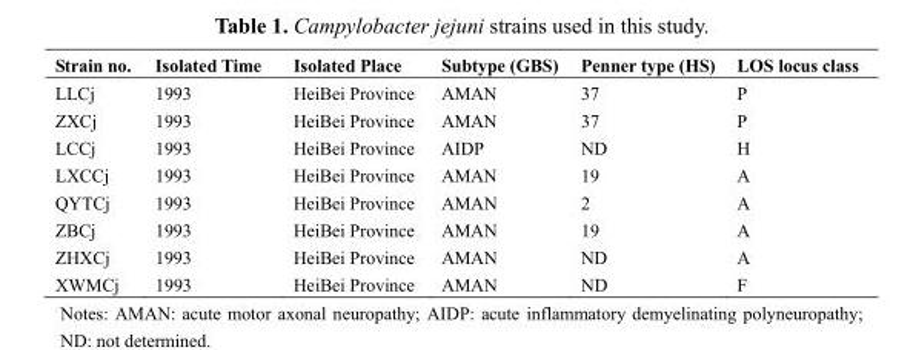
<table><thead><tr><td>Strain no.</td><td>Isolated Time</td><td>Isolated Place</td><td>Subtype (GBS)</td><td>Penner type (HS)</td><td>LOS locus class</td></tr></thead><tbody><tr><td>LLCj</td><td>1993</td><td>HeiBei Province</td><td>AMAN</td><td>37</td><td>P</td></tr><tr><td>ZXCj</td><td>1993</td><td>HeiBei Province</td><td>AMAN</td><td>37</td><td>P</td></tr><tr><td>LCCj</td><td>1993</td><td>HeiBei Province</td><td>AIDP</td><td>ND</td><td>H</td></tr><tr><td>LXCCj</td><td>1993</td><td>HeiBei Province</td><td>AMAN</td><td>19</td><td>A</td></tr><tr><td>QYTCj</td><td>1993</td><td>HeiBei Province</td><td>AMAN</td><td>2</td><td>A</td></tr><tr><td>ZBCj</td><td>1993</td><td>HeiBei Province</td><td>AMAN</td><td>19</td><td>A</td></tr><tr><td>ZHXCj</td><td>1993</td><td>HeiBei Province</td><td>AMAN</td><td>ND</td><td>A</td></tr><tr><td>XWMCj</td><td>1993</td><td>HeiBei Province</td><td>AMAN</td><td>ND</td><td>F</td></tr></tbody></table>